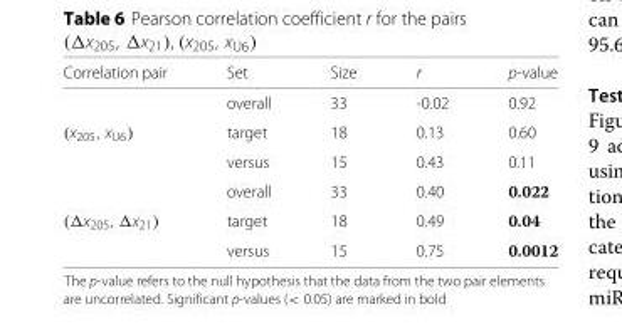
<table><thead><tr><td>Correlation pair</td><td>Set</td><td>Size</td><td>r</td><td>p-value</td></tr></thead><tbody><tr><td></td><td>overall</td><td>33</td><td>-0.02</td><td>0.92</td></tr><tr><td rowspan="3">(x<sub>205</sub>, x<sub>U6</sub>)</td><td>target</td><td>18</td><td>0.13</td><td>0.60</td></tr><tr><td>versus</td><td>15</td><td>0.43</td><td>0.11</td></tr><tr><td>overall</td><td>33</td><td>0.40</td><td>0.022</td></tr><tr><td rowspan="2">(Δx<sub>205</sub>, Δx<sub>21</sub>)</td><td>target</td><td>18</td><td>0.49</td><td>0.04</td></tr><tr><td>versus</td><td>15</td><td>0.75</td><td>0.0012</td></tr></tbody></table>